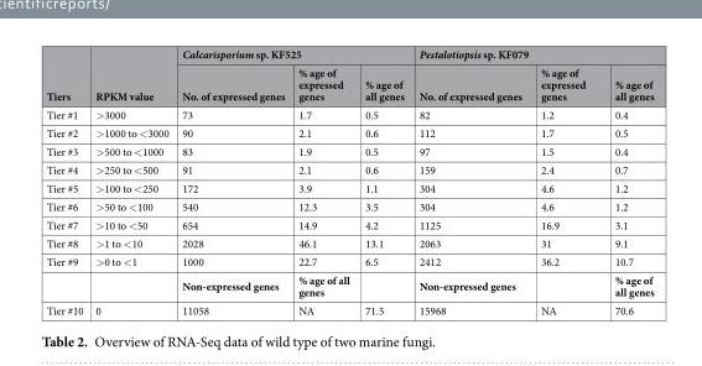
<table><thead><tr><td rowspan="2">Tiers</td><td rowspan="2">RPKM value</td><td colspan="3">Calcarisporium sp. KF525</td><td colspan="3">Pestalotiopsis sp. KF079</td></tr><tr><td>No. of expressed genes</td><td>% age of expressed genes</td><td>% age of all genes</td><td>No. of expressed genes</td><td>% age of expressed genes</td><td>% age of all genes</td></tr></thead><tbody><tr><td>Tier #1</td><td>&gt;3000</td><td>73</td><td>1.7</td><td>0.5</td><td>82</td><td>1.2</td><td>0.4</td></tr><tr><td>Tier #2</td><td>&gt;1000 to &lt;3000</td><td>90</td><td>2.1</td><td>0.6</td><td>112</td><td>1.7</td><td>0.5</td></tr><tr><td>Tier #3</td><td>&gt;500 to &lt;1000</td><td>83</td><td>1.9</td><td>0.5</td><td>97</td><td>1.5</td><td>0.4</td></tr><tr><td>Tier #4</td><td>&gt;250 to &lt;500</td><td>91</td><td>2.1</td><td>0.6</td><td>159</td><td>2.4</td><td>0.7</td></tr><tr><td>Tier #5</td><td>&gt;100 to &lt;250</td><td>172</td><td>3.9</td><td>1.1</td><td>304</td><td>4.6</td><td>1.2</td></tr><tr><td>Tier #6</td><td>&gt;50 to &lt;100</td><td>540</td><td>12.3</td><td>3.5</td><td>304</td><td>4.6</td><td>1.2</td></tr><tr><td>Tier #7</td><td>&gt;10 to &lt;50</td><td>654</td><td>14.9</td><td>4.2</td><td>1125</td><td>16.9</td><td>3.1</td></tr><tr><td>Tier #8</td><td>&gt;1 to &lt;10</td><td>2028</td><td>46.1</td><td>13.1</td><td>2063</td><td>31</td><td>9.1</td></tr><tr><td rowspan="2">Tier #9</td><td>&gt;0 to &lt;1</td><td>1000</td><td>22.7</td><td>6.5</td><td>2412</td><td>36.2</td><td>10.7</td></tr><tr><td></td><td>Non-expressed genes</td><td>% age of all genes</td><td></td><td>Non-expressed genes</td><td></td><td>% age of all genes</td></tr><tr><td>Tier #10</td><td>0</td><td>11058</td><td>NA</td><td>71.5</td><td>15968</td><td>NA</td><td>70.6</td></tr></tbody></table>